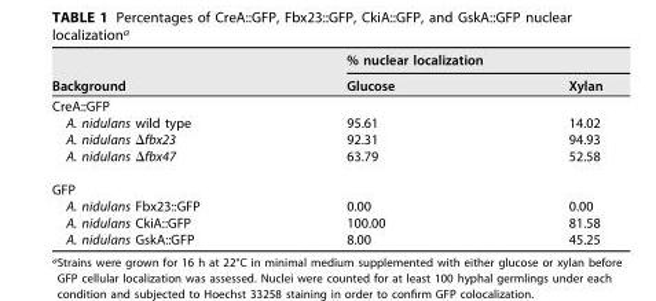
<table><thead><tr><td rowspan="2">Background</td><td colspan="2">% nuclear localization</td></tr><tr><td>Glucose</td><td>Xylan</td></tr></thead><tbody><tr><td colspan="3">CreA::GFP</td></tr><tr><td>A. nidulans wild type</td><td>95.61</td><td>14.02</td></tr><tr><td>A. nidulans Δfbx23</td><td>92.31</td><td>94.93</td></tr><tr><td>A. nidulans Δfbx47</td><td>63.79</td><td>52.58</td></tr><tr><td colspan="3">GFP</td></tr><tr><td>A. nidulans Fbx23::GFP</td><td>0.00</td><td>0.00</td></tr><tr><td>A. nidulans CkiA::GFP</td><td>100.00</td><td>81.58</td></tr><tr><td>A. nidulans GskA::GFP</td><td>8.00</td><td>45.25</td></tr></tbody></table>